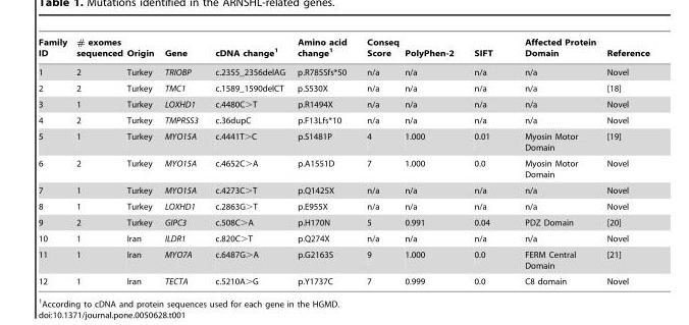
<table><thead><tr><td>Family ID</td><td># exomes sequenced</td><td>Origin</td><td>Gene</td><td>cDNA change<sup>1</sup></td><td>Amino acid change<sup>1</sup></td><td>Conseq Score</td><td>PolyPhen-2</td><td>SIFT</td><td>Affected Protein Domain</td><td>Reference</td></tr></thead><tbody><tr><td>1</td><td>2</td><td>Turkey</td><td>TRIOBP</td><td>c.2355_2356delAG</td><td>p.R785Sfs*50</td><td>n/a</td><td>n/a</td><td>n/a</td><td>n/a</td><td>Novel</td></tr><tr><td>2</td><td>2</td><td>Turkey</td><td>TMC1</td><td>c.1589_1590delCT</td><td>p.S530X</td><td>n/a</td><td>n/a</td><td>n/a</td><td>n/a</td><td>[18]</td></tr><tr><td>3</td><td>1</td><td>Turkey</td><td>LOXHD1</td><td>c.4480C&gt;T</td><td>p.R1494X</td><td>n/a</td><td>n/a</td><td>n/a</td><td>n/a</td><td>Novel</td></tr><tr><td>4</td><td>2</td><td>Turkey</td><td>TMPRSS3</td><td>c.36dupC</td><td>p.F13Lfs*10</td><td>n/a</td><td>n/a</td><td>n/a</td><td>n/a</td><td>Novel</td></tr><tr><td>5</td><td>1</td><td>Turkey</td><td>MYO15A</td><td>c.4441T&gt;C</td><td>p.S1481P</td><td>4</td><td>1.000</td><td>0.01</td><td>Myosin Motor Domain</td><td>[19]</td></tr><tr><td>6</td><td>2</td><td>Turkey</td><td>MYO15A</td><td>c.4652C&gt;A</td><td>p.A1551D</td><td>7</td><td>1.000</td><td>0.0</td><td>Myosin Motor Domain</td><td>Novel</td></tr><tr><td>7</td><td>1</td><td>Turkey</td><td>MYO15A</td><td>c.4273C&gt;T</td><td>p.Q1425X</td><td>n/a</td><td>n/a</td><td>n/a</td><td>n/a</td><td>Novel</td></tr><tr><td>8</td><td>1</td><td>Turkey</td><td>LOXHD1</td><td>c.2863G&gt;T</td><td>p.E955X</td><td>n/a</td><td>n/a</td><td>n/a</td><td>n/a</td><td>Novel</td></tr><tr><td>9</td><td>2</td><td>Turkey</td><td>GIPC3</td><td>c.508C&gt;A</td><td>p.H170N</td><td>5</td><td>0.991</td><td>0.04</td><td>PDZ Domain</td><td>[20]</td></tr><tr><td>10</td><td>1</td><td>Iran</td><td>ILDR1</td><td>c.820C&gt;T</td><td>p.Q274X</td><td>n/a</td><td>n/a</td><td>n/a</td><td>n/a</td><td>Novel</td></tr><tr><td>11</td><td>1</td><td>Iran</td><td>MYO7A</td><td>c.6487G&gt;A</td><td>p.G2163S</td><td>9</td><td>1.000</td><td>0.0</td><td>FERM Central Domain</td><td>[21]</td></tr><tr><td>12</td><td>1</td><td>Iran</td><td>TECTA</td><td>c.5210A&gt;G</td><td>p.Y1737C</td><td>7</td><td>0.999</td><td>0.0</td><td>C8 domain</td><td>Novel</td></tr></tbody></table>